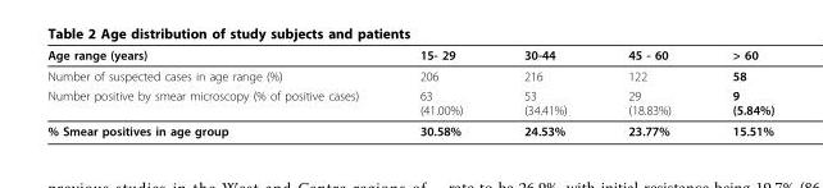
<table><thead><tr><td>Age range (years)</td><td>15- 29</td><td>30-44</td><td>45 - 60</td><td>&gt; 60</td></tr></thead><tbody><tr><td>Number of suspected cases in age range (%)</td><td>206</td><td>216</td><td>122</td><td>58</td></tr><tr><td>Number positive by smear microscopy (% of positive cases)</td><td>63 (41.00%)</td><td>53 (34.41%)</td><td>29 (18.83%)</td><td>9 (5.84%)</td></tr><tr><td>% Smear positives in age group</td><td>30.58%</td><td>24.53%</td><td>23.77%</td><td>15.51%</td></tr></tbody></table>